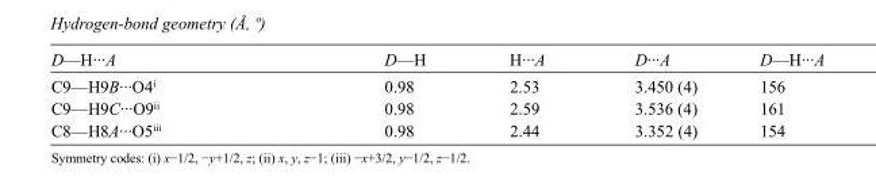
<table><tbody><tr><td>D—H···A</td><td>D—H</td><td>H···A</td><td>D···A</td><td>D—H···A</td></tr><tr><td>C9—H9B···O4<sup>i</sup></td><td>0.98</td><td>2.53</td><td>3.450 (4)</td><td>156</td></tr><tr><td>C9—H9C···O9<sup>ii</sup></td><td>0.98</td><td>2.59</td><td>3.536 (4)</td><td>161</td></tr><tr><td>C8—H8A···O5<sup>iii</sup></td><td>0.98</td><td>2.44</td><td>3.352 (4)</td><td>154</td></tr></tbody></table>